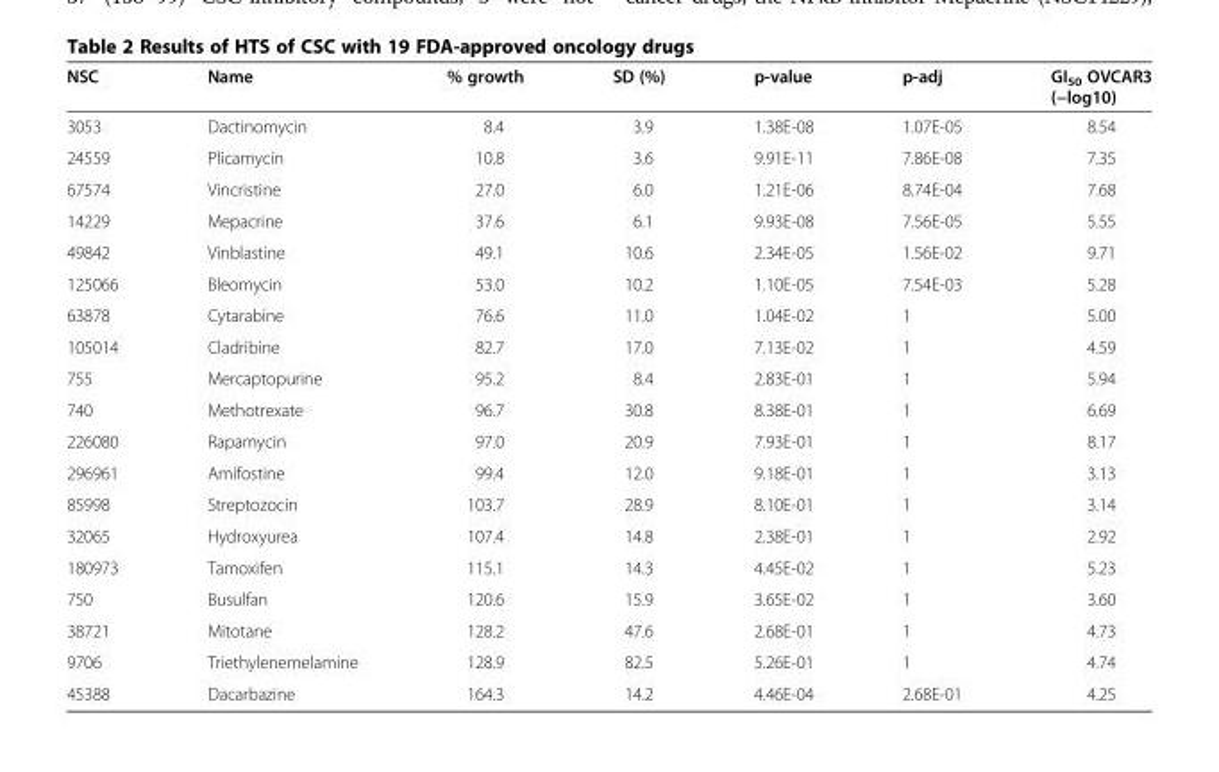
<table><thead><tr><td>NSC</td><td>Name</td><td>% growth</td><td>SD (%)</td><td>p-value</td><td>p-adj</td><td>GI<sub>50</sub> OVCAR3 (−log10)</td></tr></thead><tbody><tr><td>3053</td><td>Dactinomycin</td><td>8.4</td><td>3.9</td><td>1.38E-08</td><td>1.07E-05</td><td>8.54</td></tr><tr><td>24559</td><td>Plicamycin</td><td>10.8</td><td>3.6</td><td>9.91E-11</td><td>7.86E-08</td><td>7.35</td></tr><tr><td>67574</td><td>Vincristine</td><td>27.0</td><td>6.0</td><td>1.21E-06</td><td>8.74E-04</td><td>7.68</td></tr><tr><td>14229</td><td>Mepacrine</td><td>37.6</td><td>6.1</td><td>9.93E-08</td><td>7.56E-05</td><td>5.55</td></tr><tr><td>49842</td><td>Vinblastine</td><td>49.1</td><td>10.6</td><td>2.34E-05</td><td>1.56E-02</td><td>9.71</td></tr><tr><td>125066</td><td>Bleomycin</td><td>53.0</td><td>10.2</td><td>1.10E-05</td><td>7.54E-03</td><td>5.28</td></tr><tr><td>63878</td><td>Cytarabine</td><td>76.6</td><td>11.0</td><td>1.04E-02</td><td>1</td><td>5.00</td></tr><tr><td>105014</td><td>Cladribine</td><td>82.7</td><td>17.0</td><td>7.13E-02</td><td>1</td><td>4.59</td></tr><tr><td>755</td><td>Mercaptopurine</td><td>95.2</td><td>8.4</td><td>2.83E-01</td><td>1</td><td>5.94</td></tr><tr><td>740</td><td>Methotrexate</td><td>96.7</td><td>30.8</td><td>8.38E-01</td><td>1</td><td>6.69</td></tr><tr><td>226080</td><td>Rapamycin</td><td>97.0</td><td>20.9</td><td>7.93E-01</td><td>1</td><td>8.17</td></tr><tr><td>296961</td><td>Amifostine</td><td>99.4</td><td>12.0</td><td>9.18E-01</td><td>1</td><td>3.13</td></tr><tr><td>85998</td><td>Streptozocin</td><td>103.7</td><td>28.9</td><td>8.10E-01</td><td>1</td><td>3.14</td></tr><tr><td>32065</td><td>Hydroxyurea</td><td>107.4</td><td>14.8</td><td>2.38E-01</td><td>1</td><td>2.92</td></tr><tr><td>180973</td><td>Tamoxifen</td><td>115.1</td><td>14.3</td><td>4.45E-02</td><td>1</td><td>5.23</td></tr><tr><td>750</td><td>Busulfan</td><td>120.6</td><td>15.9</td><td>3.65E-02</td><td>1</td><td>3.60</td></tr><tr><td>38721</td><td>Mitotane</td><td>128.2</td><td>47.6</td><td>2.68E-01</td><td>1</td><td>4.73</td></tr><tr><td>9706</td><td>Triethylenemelamine</td><td>128.9</td><td>82.5</td><td>5.26E-01</td><td>1</td><td>4.74</td></tr><tr><td>45388</td><td>Dacarbazine</td><td>164.3</td><td>14.2</td><td>4.46E-04</td><td>2.68E-01</td><td>4.25</td></tr></tbody></table>